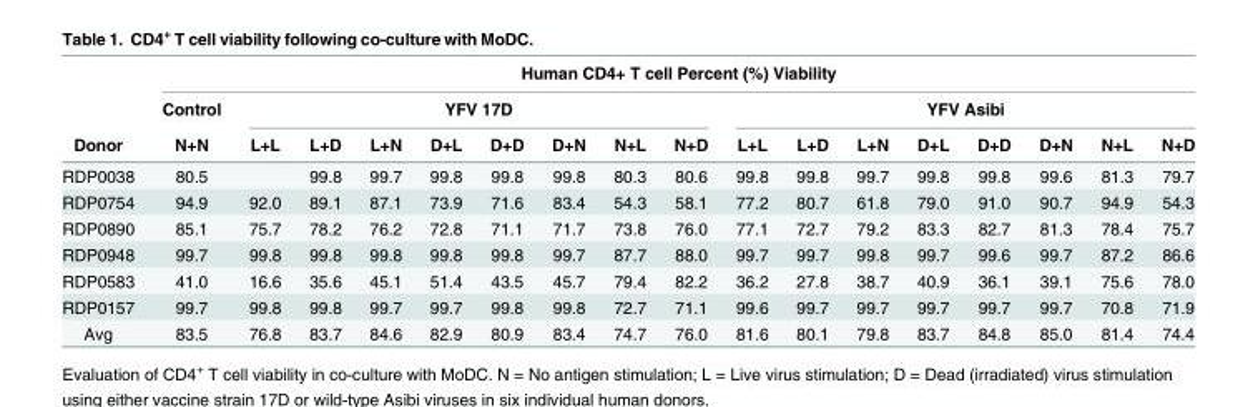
<table><thead><tr><td rowspan="3">Donor</td><td colspan="17">Human CD4+ T cell Percent (%) Viability</td></tr><tr><td rowspan="2">Control N+N</td><td colspan="8">YFV 17D</td><td colspan="8">YFV Asibi</td></tr><tr><td>L+L</td><td>L+D</td><td>L+N</td><td>D+L</td><td>D+D</td><td>D+N</td><td>N+L</td><td>N+D</td><td>L+L</td><td>L+D</td><td>L+N</td><td>D+L</td><td>D+D</td><td>D+N</td><td>N+L</td><td>N+D</td></tr></thead><tbody><tr><td>RDP0038</td><td>80.5</td><td></td><td>99.8</td><td>99.7</td><td>99.8</td><td>99.8</td><td>99.8</td><td>80.3</td><td>80.6</td><td>99.8</td><td>99.8</td><td>99.7</td><td>99.8</td><td>99.8</td><td>99.6</td><td>81.3</td><td>79.7</td></tr><tr><td>RDP0754</td><td>94.9</td><td>92.0</td><td>89.1</td><td>87.1</td><td>73.9</td><td>71.6</td><td>83.4</td><td>54.3</td><td>58.1</td><td>77.2</td><td>80.7</td><td>61.8</td><td>79.0</td><td>91.0</td><td>90.7</td><td>94.9</td><td>54.3</td></tr><tr><td>RDP0890</td><td>85.1</td><td>75.7</td><td>78.2</td><td>76.2</td><td>72.8</td><td>71.1</td><td>71.7</td><td>73.8</td><td>76.0</td><td>77.1</td><td>72.7</td><td>79.2</td><td>83.3</td><td>82.7</td><td>81.3</td><td>78.4</td><td>75.7</td></tr><tr><td>RDP0948</td><td>99.7</td><td>99.8</td><td>99.8</td><td>99.8</td><td>99.8</td><td>99.8</td><td>99.7</td><td>87.7</td><td>88.0</td><td>99.7</td><td>99.7</td><td>99.8</td><td>99.7</td><td>99.6</td><td>99.7</td><td>87.2</td><td>86.6</td></tr><tr><td>RDP0583</td><td>41.0</td><td>16.6</td><td>35.6</td><td>45.1</td><td>51.4</td><td>43.5</td><td>45.7</td><td>79.4</td><td>82.2</td><td>36.2</td><td>27.8</td><td>38.7</td><td>40.9</td><td>36.1</td><td>39.1</td><td>75.6</td><td>78.0</td></tr><tr><td>RDP0157</td><td>99.7</td><td>99.8</td><td>99.8</td><td>99.7</td><td>99.7</td><td>99.8</td><td>99.8</td><td>72.7</td><td>71.1</td><td>99.6</td><td>99.7</td><td>99.7</td><td>99.7</td><td>99.7</td><td>99.7</td><td>70.8</td><td>71.9</td></tr><tr><td>Avg</td><td>83.5</td><td>76.8</td><td>83.7</td><td>84.6</td><td>82.9</td><td>80.9</td><td>83.4</td><td>74.7</td><td>76.0</td><td>81.6</td><td>80.1</td><td>79.8</td><td>83.7</td><td>84.8</td><td>85.0</td><td>81.4</td><td>74.4</td></tr></tbody></table>